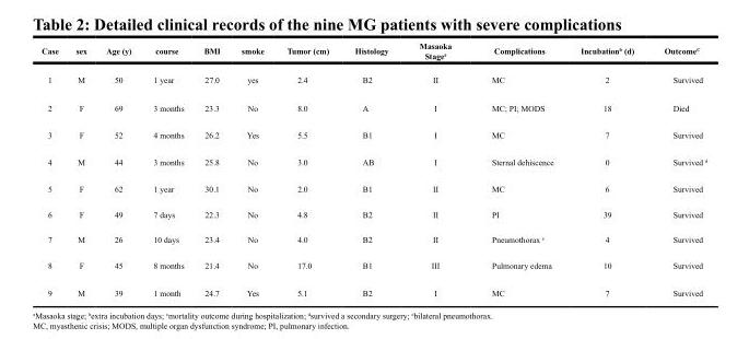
<table><thead><tr><td>Case</td><td>sex</td><td>Age (y)</td><td>course</td><td>BMI</td><td>smoke</td><td>Tumor (cm)</td><td>Histology</td><td>Masaoka Stage<sup>a</sup></td><td>Complications</td><td>Incubation<sup>b</sup> (d)</td><td>Outcome<sup>C</sup></td></tr></thead><tbody><tr><td>1</td><td>M</td><td>50</td><td>1 year</td><td>27.0</td><td>yes</td><td>2.4</td><td>B2</td><td>II</td><td>MC</td><td>2</td><td>Survived</td></tr><tr><td>2</td><td>F</td><td>69</td><td>3 months</td><td>23.3</td><td>No</td><td>8.0</td><td>A</td><td>I</td><td>MC; PI; MODS</td><td>18</td><td>Died</td></tr><tr><td>3</td><td>F</td><td>52</td><td>4 months</td><td>26.2</td><td>Yes</td><td>5.5</td><td>B1</td><td>I</td><td>MC</td><td>7</td><td>Survived</td></tr><tr><td>4</td><td>M</td><td>44</td><td>3 months</td><td>25.8</td><td>No</td><td>3.0</td><td>AB</td><td>I</td><td>Sternal dehiscence</td><td>0</td><td>Survived <sup>d</sup></td></tr><tr><td>5</td><td>F</td><td>62</td><td>1 year</td><td>30.1</td><td>No</td><td>2.0</td><td>B1</td><td>II</td><td>MC</td><td>6</td><td>Survived</td></tr><tr><td>6</td><td>F</td><td>49</td><td>7 days</td><td>22.3</td><td>No</td><td>4.8</td><td>B2</td><td>II</td><td>PI</td><td>39</td><td>Survived</td></tr><tr><td>7</td><td>M</td><td>26</td><td>10 days</td><td>23.4</td><td>No</td><td>4.0</td><td>B2</td><td>II</td><td>Pneumothorax <sup>e</sup></td><td>4</td><td>Survived</td></tr><tr><td>8</td><td>F</td><td>45</td><td>8 months</td><td>21.4</td><td>No</td><td>17.0</td><td>B1</td><td>III</td><td>Pulmonary edema</td><td>10</td><td>Survived</td></tr><tr><td>9</td><td>M</td><td>39</td><td>1 month</td><td>24.7</td><td>Yes</td><td>5.1</td><td>B2</td><td>I</td><td>MC</td><td>7</td><td>Survived</td></tr></tbody></table>